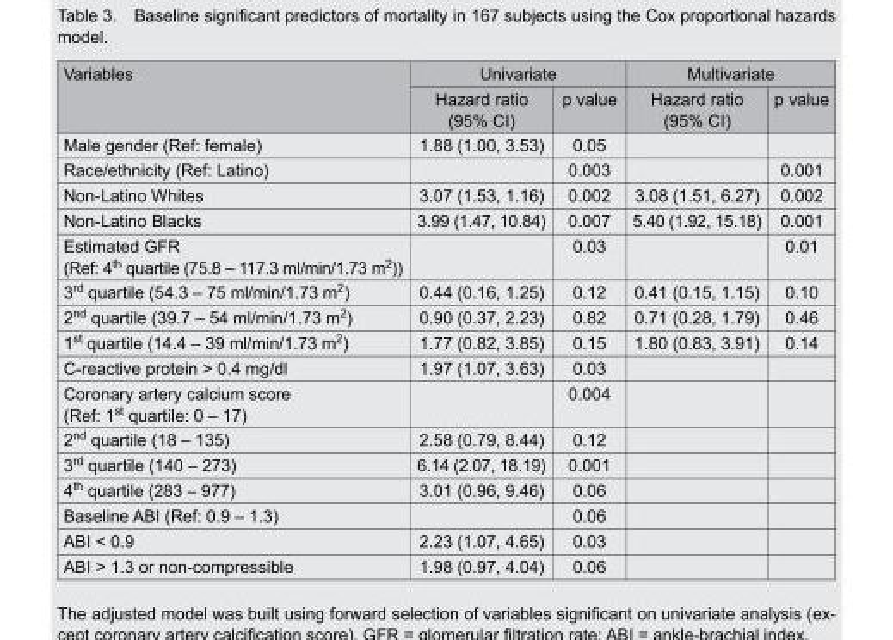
<table><thead><tr><td rowspan="2">Variables</td><td colspan="2">Univariate</td><td colspan="2">Multivariate</td></tr><tr><td>Hazard ratio (95% CI)</td><td>p value</td><td>Hazard ratio (95% CI)</td><td>p value</td></tr></thead><tbody><tr><td>Male gender (Ref: female)</td><td>1.88 (1.00, 3.53)</td><td>0.05</td><td></td><td></td></tr><tr><td>Race/ethnicity (Ref: Latino)</td><td></td><td>0.003</td><td></td><td>0.001</td></tr><tr><td>Non-Latino Whites</td><td>3.07 (1.53, 1.16)</td><td>0.002</td><td>3.08 (1.51, 6.27)</td><td>0.002</td></tr><tr><td>Non-Latino Blacks</td><td>3.99 (1.47, 10.84)</td><td>0.007</td><td>5.40 (1.92, 15.18)</td><td>0.001</td></tr><tr><td>Estimated GFR (Ref: 4<sup>th</sup> quartile (75.8 – 117.3 ml/min/1.73 m<sup>2</sup>))</td><td></td><td>0.03</td><td></td><td>0.01</td></tr><tr><td>3<sup>rd</sup> quartile (54.3 – 75 ml/min/1.73 m<sup>2</sup>)</td><td>0.44 (0.16, 1.25)</td><td>0.12</td><td>0.41 (0.15, 1.15)</td><td>0.10</td></tr><tr><td>2<sup>nd</sup> quartile (39.7 – 54 ml/min/1.73 m<sup>2</sup>)</td><td>0.90 (0.37, 2.23)</td><td>0.82</td><td>0.71 (0.28, 1.79)</td><td>0.46</td></tr><tr><td>1<sup>st</sup> quartile (14.4 – 39 ml/min/1.73 m<sup>2</sup>)</td><td>1.77 (0.82, 3.85)</td><td>0.15</td><td>1.80 (0.83, 3.91)</td><td>0.14</td></tr><tr><td>C-reactive protein &gt; 0.4 mg/dl</td><td>1.97 (1.07, 3.63)</td><td>0.03</td><td></td><td></td></tr><tr><td>Coronary artery calcium score (Ref: 1<sup>st</sup> quartile: 0 – 17)</td><td></td><td>0.004</td><td></td><td></td></tr><tr><td>2<sup>nd</sup> quartile (18 – 135)</td><td>2.58 (0.79, 8.44)</td><td>0.12</td><td></td><td></td></tr><tr><td>3<sup>rd</sup> quartile (140 – 273)</td><td>6.14 (2.07, 18.19)</td><td>0.001</td><td></td><td></td></tr><tr><td>4<sup>th</sup> quartile (283 – 977)</td><td>3.01 (0.96, 9.46)</td><td>0.06</td><td></td><td></td></tr><tr><td>Baseline ABI (Ref: 0.9 – 1.3)</td><td></td><td>0.06</td><td></td><td></td></tr><tr><td>ABI &lt; 0.9</td><td>2.23 (1.07, 4.65)</td><td>0.03</td><td></td><td></td></tr><tr><td>ABI &gt; 1.3 or non-compressible</td><td>1.98 (0.97, 4.04)</td><td>0.06</td><td></td><td></td></tr></tbody></table>